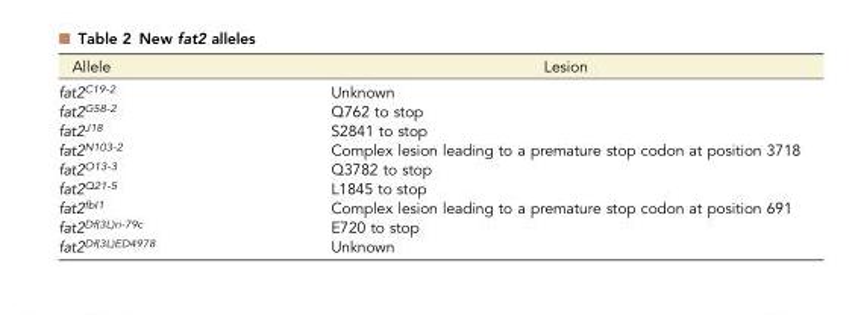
<table><thead><tr><td>Allele</td><td>Lesion</td></tr></thead><tbody><tr><td>fat2<sup>C19-2</sup></td><td>Unknown</td></tr><tr><td>fat2<sup>G58-2</sup></td><td>Q762 to stop</td></tr><tr><td>fat2<sup>J18</sup></td><td>S2841 to stop</td></tr><tr><td>fat2<sup>N103-2</sup></td><td>Complex lesion leading to a premature stop codon at position 3718</td></tr><tr><td>fat2<sup>O13-3</sup></td><td>Q3782 to stop</td></tr><tr><td>fat2<sup>Q21-5</sup></td><td>L1845 to stop</td></tr><tr><td>fat2<sup>fbl1</sup></td><td>Complex lesion leading to a premature stop codon at position 691</td></tr><tr><td>fat2<sup>Df(3L)ri-79c</sup></td><td>E720 to stop</td></tr><tr><td>fat2<sup>Df(3L)ED4978</sup></td><td>Unknown</td></tr></tbody></table>